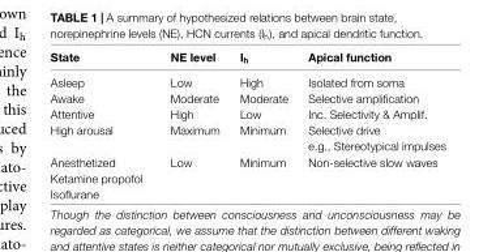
<table><thead><tr><td>State</td><td>NE level</td><td>I<sub>h</sub></td><td>Apical function</td></tr></thead><tbody><tr><td>Asleep</td><td>Low</td><td>High</td><td>Isolated from soma</td></tr><tr><td>Awake</td><td>Moderate</td><td>Moderate</td><td>Selective amplification</td></tr><tr><td>Attentive</td><td>High</td><td>Low</td><td>Inc. Selectivity &amp; Amplif.</td></tr><tr><td>High arousal</td><td>Maximum</td><td>Minimum</td><td>Selective drive e.g., Stereotypical impulses</td></tr><tr><td>Anesthetized Ketamine propofol Isoflurane</td><td>Low</td><td>Minimum</td><td>Non-selective slow waves</td></tr></tbody></table>